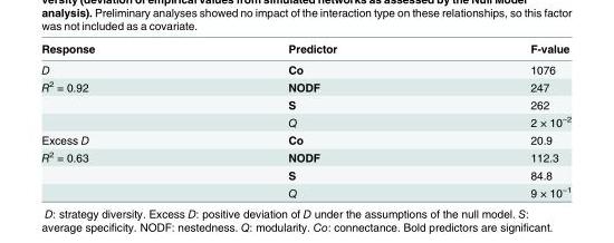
<table><thead><tr><td>Response</td><td>Predictor</td><td>F-value</td></tr></thead><tbody><tr><td>D</td><td>Co</td><td>1076</td></tr><tr><td rowspan="3">R<sup>2</sup> = 0.92</td><td>NODF</td><td>247</td></tr><tr><td>S</td><td>262</td></tr><tr><td>Q</td><td>2 × 10<sup>−2</sup></td></tr><tr><td>Excess D</td><td>Co</td><td>20.9</td></tr><tr><td rowspan="3">R<sup>2</sup> = 0.63</td><td>NODF</td><td>112.3</td></tr><tr><td>S</td><td>84.8</td></tr><tr><td>Q</td><td>9 × 10<sup>−1</sup></td></tr></tbody></table>